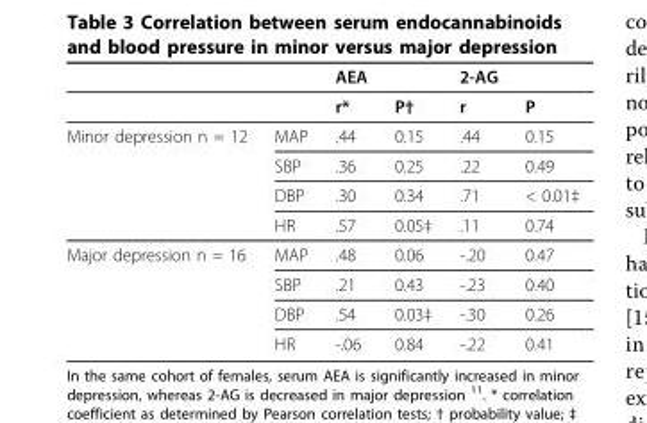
<table><thead><tr><td></td><td></td><td>AEA</td><td></td><td>2-AG</td><td></td></tr></thead><tbody><tr><td></td><td></td><td>r*</td><td>P†</td><td>r</td><td>P</td></tr><tr><td rowspan="4">Minor depression n = 12</td><td>MAP</td><td>.44</td><td>0.15</td><td>.44</td><td>0.15</td></tr><tr><td>SBP</td><td>.36</td><td>0.25</td><td>.22</td><td>0.49</td></tr><tr><td>DBP</td><td>.30</td><td>0.34</td><td>.71</td><td>&lt; 0.01‡</td></tr><tr><td>HR</td><td>.57</td><td>0.05‡</td><td>.11</td><td>0.74</td></tr><tr><td rowspan="4">Major depression n = 16</td><td>MAP</td><td>.48</td><td>0.06</td><td>-.20</td><td>0.47</td></tr><tr><td>SBP</td><td>.21</td><td>0.43</td><td>-.23</td><td>0.40</td></tr><tr><td>DBP</td><td>.54</td><td>0.03‡</td><td>-.30</td><td>0.26</td></tr><tr><td>HR</td><td>-.06</td><td>0.84</td><td>-.22</td><td>0.41</td></tr></tbody></table>